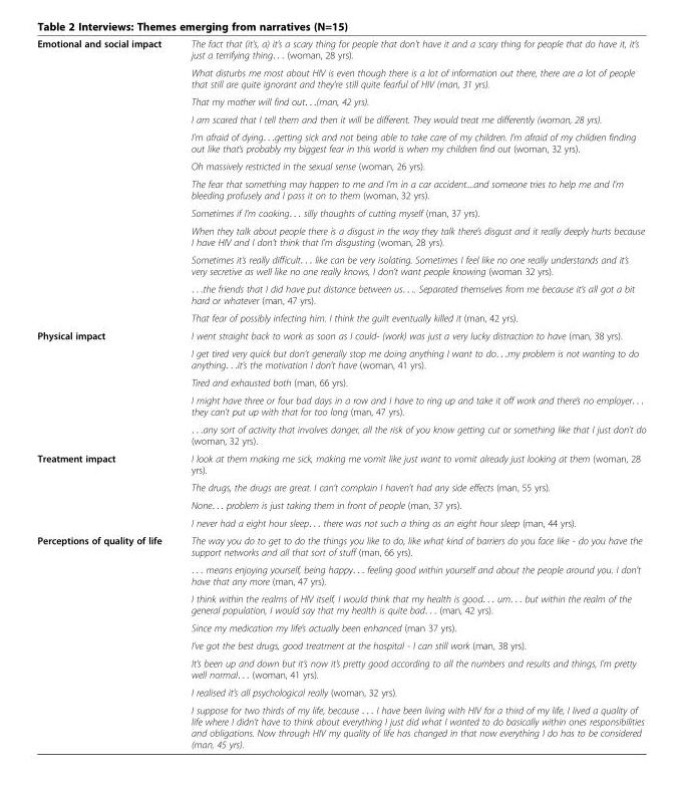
<table><tbody><tr><td rowspan="12">Emotional and social impact</td><td>The fact that (it’s, a) it’s a scary thing for people that don’t have it and a scary thing for people that do have it, it’s just a terrifying thing. . . (woman, 28 yrs).</td></tr><tr><td>What disturbs me most about HIV is even though there is a lot of information out there, there are a lot of people that still are quite ignorant and they’re still quite fearful of HIV (man, 31 yrs).</td></tr><tr><td>That my mother will find out. . .(man, 42 yrs).</td></tr><tr><td>I am scared that I tell them and then it will be different. They would treat me differently (woman, 28 yrs).</td></tr><tr><td>I’m afraid of dying. . .getting sick and not being able to take care of my children. I’m afraid of my children finding out like that’s probably my biggest fear in this world is when my children find out (woman, 32 yrs).</td></tr><tr><td>Oh massively restricted in the sexual sense (woman, 26 yrs).</td></tr><tr><td>The fear that something may happen to me and I’m in a car accident....and someone tries to help me and I’m bleeding profusely and I pass it on to them (woman, 32 yrs).</td></tr><tr><td>Sometimes if I’m cooking. . . silly thoughts of cutting myself (man, 37 yrs).</td></tr><tr><td>When they talk about people there is a disgust in the way they talk there’s disgust and it really deeply hurts because I have HIV and I don’t think that I’m disgusting (woman, 28 yrs).</td></tr><tr><td>Sometimes it’s really difficult. . . like can be very isolating. Sometimes I feel like no one really understands and it’s very secretive as well like no one really knows, I don’t want people knowing (woman 32 yrs).</td></tr><tr><td>. . .the friends that I did have put distance between us. . .. Separated themselves from me because it’s all got a bit hard or whatever (man, 47 yrs).</td></tr><tr><td>That fear of possibly infecting him. I think the guilt eventually killed it (man, 42 yrs).</td></tr><tr><td rowspan="5">Physical impact</td><td>I went straight back to work as soon as I could- (work) was just a very lucky distraction to have (man, 38 yrs).</td></tr><tr><td>I get tired very quick but don’t generally stop me doing anything I want to do. . .my problem is not wanting to do anything. . .it’s the motivation I don’t have (woman, 41 yrs).</td></tr><tr><td>Tired and exhausted both (man, 66 yrs).</td></tr><tr><td>I might have three or four bad days in a row and I have to ring up and take it off work and there’s no employer. . . they can’t put up with that for too long (man, 47 yrs).</td></tr><tr><td>. . .any sort of activity that involves danger, all the risk of you know getting cut or something like that I just don’t do (woman, 32 yrs).</td></tr><tr><td rowspan="4">Treatment impact</td><td>I look at them making me sick, making me vomit like just want to vomit already just looking at them (woman, 28 yrs).</td></tr><tr><td>The drugs, the drugs are great. I can’t complain I haven’t had any side effects (man, 55 yrs).</td></tr><tr><td>None. . . problem is just taking them in front of people (man, 37 yrs).</td></tr><tr><td>I never had a eight hour sleep. . . there was not such a thing as an eight hour sleep (man, 44 yrs).</td></tr><tr><td rowspan="8">Perceptions of quality of life</td><td>The way you do to get to do the things you like to do, like what kind of barriers do you face like - do you have the support networks and all that sort of stuff (man, 66 yrs).</td></tr><tr><td>. . . means enjoying yourself, being happy. . . feeling good within yourself and about the people around you. I don’t have that any more (man, 47 yrs).</td></tr><tr><td>I think within the realms of HIV itself, I would think that my health is good. . . um. . . but within the realm of the general population, I would say that my health is quite bad. . . (man, 42 yrs).</td></tr><tr><td>Since my medication my life’s actually been enhanced (man 37 yrs).</td></tr><tr><td>I’ve got the best drugs, good treatment at the hospital - I can still work (man, 38 yrs).</td></tr><tr><td>It’s been up and down but it’s now it’s pretty good according to all the numbers and results and things, I’m pretty well normal. . . (woman, 41 yrs).</td></tr><tr><td>I realised it’s all psychological really (woman, 32 yrs).</td></tr><tr><td>I suppose for two thirds of my life, because . . . I have been living with HIV for a third of my life, I lived a quality of life where I didn’t have to think about everything I just did what I wanted to do basically within ones responsibilities and obligations. Now through HIV my quality of life has changed in that now everything I do has to be considered (man, 45 yrs).</td></tr></tbody></table>